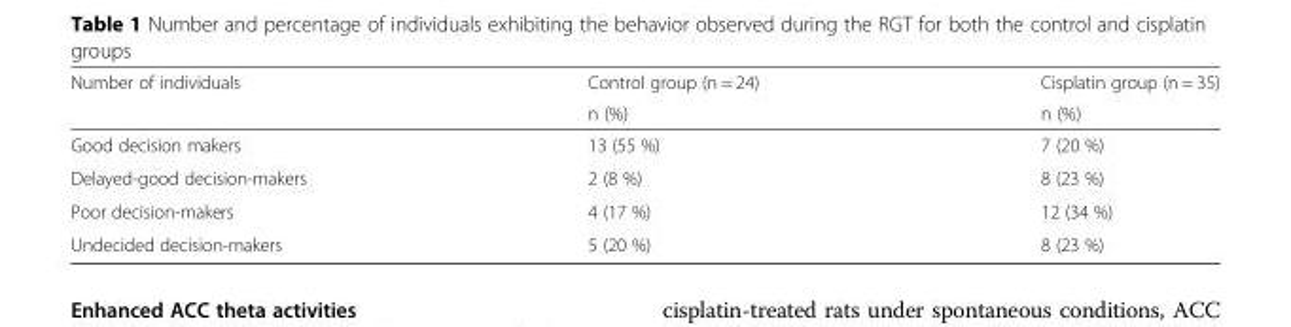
<table><thead><tr><td rowspan="2">Number of individuals</td><td rowspan="2">Control group (n = 24) n (%)</td><td rowspan="2">Cisplatin group (n = 35) n (%)</td></tr><tr></tr></thead><tbody><tr><td>Good decision makers</td><td>13 (55 %)</td><td>7 (20 %)</td></tr><tr><td>Delayed-good decision-makers</td><td>2 (8 %)</td><td>8 (23 %)</td></tr><tr><td>Poor decision-makers</td><td>4 (17 %)</td><td>12 (34 %)</td></tr><tr><td>Undecided decision-makers</td><td>5 (20 %)</td><td>8 (23 %)</td></tr></tbody></table>